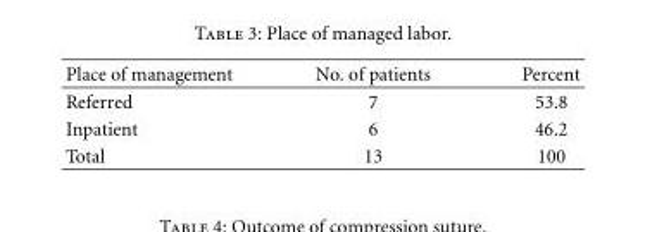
<table><thead><tr><td>Place of management</td><td>No. of patients</td><td>Percent</td></tr></thead><tbody><tr><td>Referred</td><td>7</td><td>53.8</td></tr><tr><td>Inpatient</td><td>6</td><td>46.2</td></tr><tr><td>Total</td><td>13</td><td>100</td></tr></tbody></table>